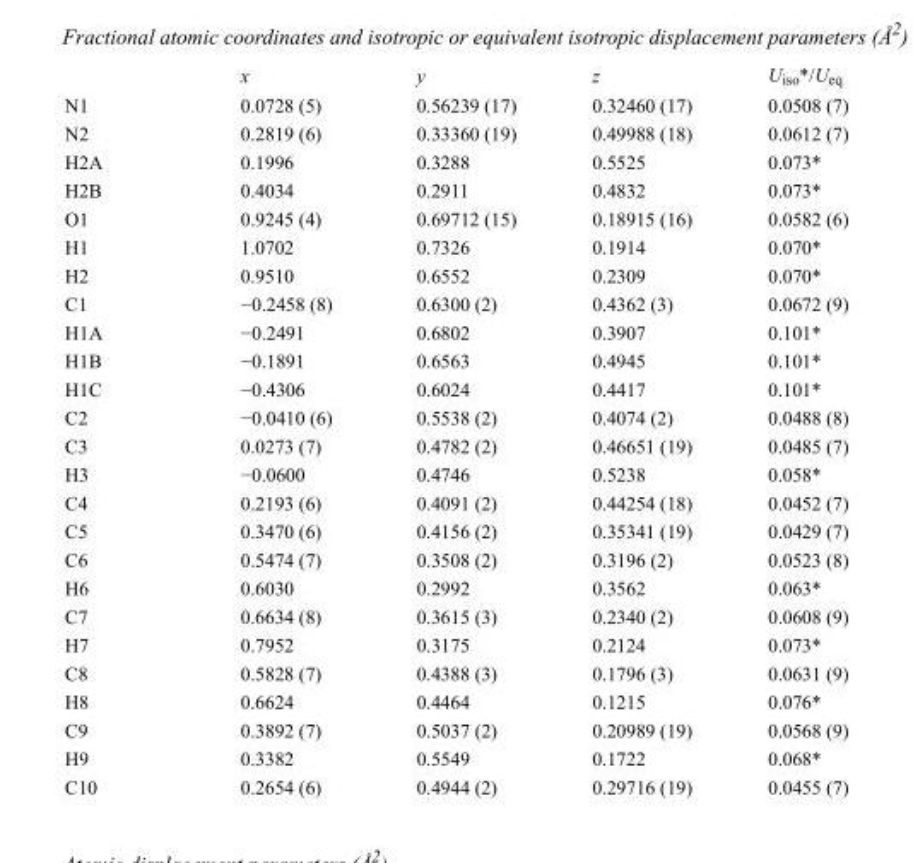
<table><thead><tr><td></td><td>x</td><td>y</td><td>z</td><td>U<sub>iso</sub>*/U<sub>eq</sub></td></tr></thead><tbody><tr><td>N1</td><td>0.0728 (5)</td><td>0.56239 (17)</td><td>0.32460 (17)</td><td>0.0508 (7)</td></tr><tr><td>N2</td><td>0.2819 (6)</td><td>0.33360 (19)</td><td>0.49988 (18)</td><td>0.0612 (7)</td></tr><tr><td>H2A</td><td>0.1996</td><td>0.3288</td><td>0.5525</td><td>0.073*</td></tr><tr><td>H2B</td><td>0.4034</td><td>0.2911</td><td>0.4832</td><td>0.073*</td></tr><tr><td>O1</td><td>0.9245 (4)</td><td>0.69712 (15)</td><td>0.18915 (16)</td><td>0.0582 (6)</td></tr><tr><td>H1</td><td>1.0702</td><td>0.7326</td><td>0.1914</td><td>0.070*</td></tr><tr><td>H2</td><td>0.9510</td><td>0.6552</td><td>0.2309</td><td>0.070*</td></tr><tr><td>C1</td><td>−0.2458 (8)</td><td>0.6300 (2)</td><td>0.4362 (3)</td><td>0.0672 (9)</td></tr><tr><td>H1A</td><td>−0.2491</td><td>0.6802</td><td>0.3907</td><td>0.101*</td></tr><tr><td>H1B</td><td>−0.1891</td><td>0.6563</td><td>0.4945</td><td>0.101*</td></tr><tr><td>H1C</td><td>−0.4306</td><td>0.6024</td><td>0.4417</td><td>0.101*</td></tr><tr><td>C2</td><td>−0.0410 (6)</td><td>0.5538 (2)</td><td>0.4074 (2)</td><td>0.0488 (8)</td></tr><tr><td>C3</td><td>0.0273 (7)</td><td>0.4782 (2)</td><td>0.46651 (19)</td><td>0.0485 (7)</td></tr><tr><td>H3</td><td>−0.0600</td><td>0.4746</td><td>0.5238</td><td>0.058*</td></tr><tr><td>C4</td><td>0.2193 (6)</td><td>0.4091 (2)</td><td>0.44254 (18)</td><td>0.0452 (7)</td></tr><tr><td>C5</td><td>0.3470 (6)</td><td>0.4156 (2)</td><td>0.35341 (19)</td><td>0.0429 (7)</td></tr><tr><td>C6</td><td>0.5474 (7)</td><td>0.3508 (2)</td><td>0.3196 (2)</td><td>0.0523 (8)</td></tr><tr><td>H6</td><td>0.6030</td><td>0.2992</td><td>0.3562</td><td>0.063*</td></tr><tr><td>C7</td><td>0.6634 (8)</td><td>0.3615 (3)</td><td>0.2340 (2)</td><td>0.0608 (9)</td></tr><tr><td>H7</td><td>0.7952</td><td>0.3175</td><td>0.2124</td><td>0.073*</td></tr><tr><td>C8</td><td>0.5828 (7)</td><td>0.4388 (3)</td><td>0.1796 (3)</td><td>0.0631 (9)</td></tr><tr><td>H8</td><td>0.6624</td><td>0.4464</td><td>0.1215</td><td>0.076*</td></tr><tr><td>C9</td><td>0.3892 (7)</td><td>0.5037 (2)</td><td>0.20989 (19)</td><td>0.0568 (9)</td></tr><tr><td>H9</td><td>0.3382</td><td>0.5549</td><td>0.1722</td><td>0.068*</td></tr><tr><td>C10</td><td>0.2654 (6)</td><td>0.4944 (2)</td><td>0.29716 (19)</td><td>0.0455 (7)</td></tr></tbody></table>